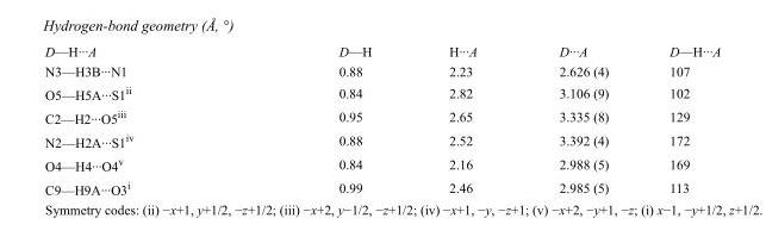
<table><tbody><tr><td>D—H···A</td><td>D—H</td><td>H···A</td><td>D···A</td><td>D—H···A</td></tr><tr><td>N3—H3B···N1</td><td>0.88</td><td>2.23</td><td>2.626 (4)</td><td>107</td></tr><tr><td>O5—H5A···S1<sup>ii</sup></td><td>0.84</td><td>2.82</td><td>3.106 (9)</td><td>102</td></tr><tr><td>C2—H2···O5<sup>iii</sup></td><td>0.95</td><td>2.65</td><td>3.335 (8)</td><td>129</td></tr><tr><td>N2—H2A···S1<sup>iv</sup></td><td>0.88</td><td>2.52</td><td>3.392 (4)</td><td>172</td></tr><tr><td>O4—H4···O4<sup>v</sup></td><td>0.84</td><td>2.16</td><td>2.988 (5)</td><td>169</td></tr><tr><td>C9—H9A···O3<sup>i</sup></td><td>0.99</td><td>2.46</td><td>2.985 (5)</td><td>113</td></tr></tbody></table>